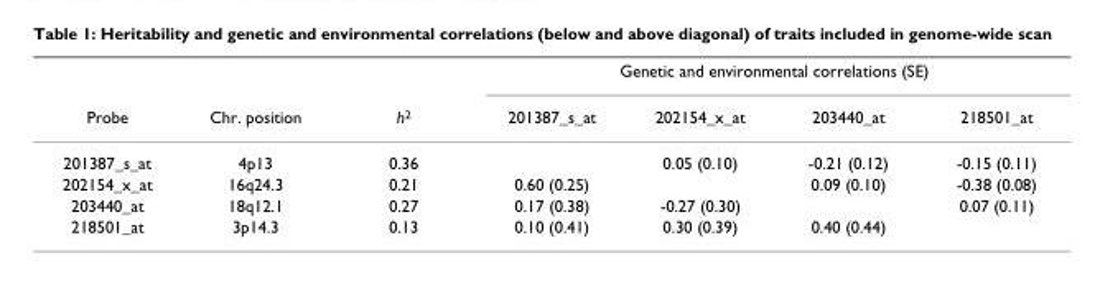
<table><thead><tr><td rowspan="2">Probe</td><td rowspan="2">Chr. position</td><td rowspan="2">h<sup>2</sup></td><td colspan="4">Genetic and environmental correlations (SE)</td></tr><tr><td>201387_s_at</td><td>202154_x_at</td><td>203440_at</td><td>218501_at</td></tr></thead><tbody><tr><td>201387_s_at</td><td>4p13</td><td>0.36</td><td></td><td>0.05 (0.10)</td><td>-0.21 (0.12)</td><td>-0.15 (0.11)</td></tr><tr><td>202154_x_at</td><td>16q24.3</td><td>0.21</td><td>0.60 (0.25)</td><td></td><td>0.09 (0.10)</td><td>-0.38 (0.08)</td></tr><tr><td>203440_at</td><td>18q12.1</td><td>0.27</td><td>0.17 (0.38)</td><td>-0.27 (0.30)</td><td></td><td>0.07 (0.11)</td></tr><tr><td>218501_at</td><td>3p14.3</td><td>0.13</td><td>0.10 (0.41)</td><td>0.30 (0.39)</td><td>0.40 (0.44)</td><td></td></tr></tbody></table>